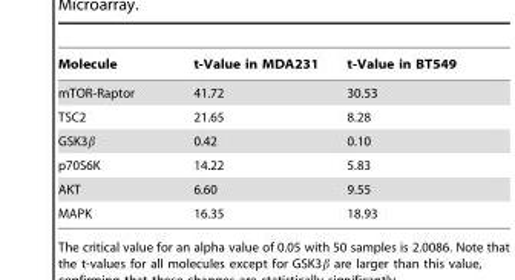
<table><thead><tr><td>Molecule</td><td>t-Value in MDA231</td><td>t-Value in BT549</td></tr></thead><tbody><tr><td>mTOR-Raptor</td><td>41.72</td><td>30.53</td></tr><tr><td>TSC2</td><td>21.65</td><td>8.28</td></tr><tr><td>GSK3β</td><td>0.42</td><td>0.10</td></tr><tr><td>p70S6K</td><td>14.22</td><td>5.83</td></tr><tr><td>AKT</td><td>6.60</td><td>9.55</td></tr><tr><td>MAPK</td><td>16.35</td><td>18.93</td></tr></tbody></table>